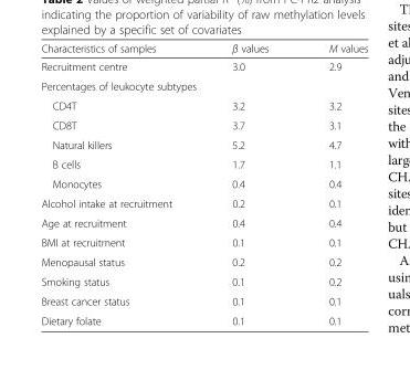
<table><thead><tr><td>Characteristics of samples</td><td>β values</td><td>M values</td></tr></thead><tbody><tr><td>Recruitment centre</td><td>3.0</td><td>2.9</td></tr><tr><td colspan="3">Percentages of leukocyte subtypes</td></tr><tr><td>CD4T</td><td>3.2</td><td>3.2</td></tr><tr><td>CD8T</td><td>3.7</td><td>3.1</td></tr><tr><td>Natural killers</td><td>5.2</td><td>4.7</td></tr><tr><td>B cells</td><td>1.7</td><td>1.1</td></tr><tr><td>Monocytes</td><td>0.4</td><td>0.4</td></tr><tr><td>Alcohol intake at recruitment</td><td>0.2</td><td>0.1</td></tr><tr><td>Age at recruitment</td><td>0.4</td><td>0.4</td></tr><tr><td>BMI at recruitment</td><td>0.1</td><td>0.1</td></tr><tr><td>Menopausal status</td><td>0.2</td><td>0.2</td></tr><tr><td>Smoking status</td><td>0.1</td><td>0.2</td></tr><tr><td>Breast cancer status</td><td>0.1</td><td>0.1</td></tr><tr><td>Dietary folate</td><td>0.1</td><td>0.1</td></tr></tbody></table>